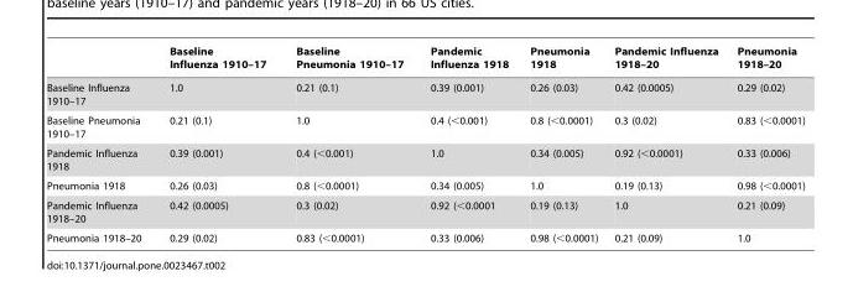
<table><thead><tr><td></td><td>Baseline Influenza 1910–17</td><td>Baseline Pneumonia 1910–17</td><td>Pandemic Influenza 1918</td><td>Pneumonia 1918</td><td>Pandemic Influenza 1918–20</td><td>Pneumonia 1918–20</td></tr></thead><tbody><tr><td>Baseline Influenza 1910–17</td><td>1.0</td><td>0.21 (0.1)</td><td>0.39 (0.001)</td><td>0.26 (0.03)</td><td>0.42 (0.0005)</td><td>0.29 (0.02)</td></tr><tr><td>Baseline Pneumonia 1910–17</td><td>0.21 (0.1)</td><td>1.0</td><td>0.4 (&lt;0.001)</td><td>0.8 (&lt;0.0001)</td><td>0.3 (0.02)</td><td>0.83 (&lt;0.0001)</td></tr><tr><td>Pandemic Influenza 1918</td><td>0.39 (0.001)</td><td>0.4 (&lt;0.001)</td><td>1.0</td><td>0.34 (0.005)</td><td>0.92 (&lt;0.0001)</td><td>0.33 (0.006)</td></tr><tr><td>Pneumonia 1918</td><td>0.26 (0.03)</td><td>0.8 (&lt;0.0001)</td><td>0.34 (0.005)</td><td>1.0</td><td>0.19 (0.13)</td><td>0.98 (&lt;0.0001)</td></tr><tr><td>Pandemic Influenza 1918–20</td><td>0.42 (0.0005)</td><td>0.3 (0.02)</td><td>0.92 (&lt;0.0001</td><td>0.19 (0.13)</td><td>1.0</td><td>0.21 (0.09)</td></tr><tr><td>Pneumonia 1918–20</td><td>0.29 (0.02)</td><td>0.83 (&lt;0.0001)</td><td>0.33 (0.006)</td><td>0.98 (&lt;0.0001)</td><td>0.21 (0.09)</td><td>1.0</td></tr></tbody></table>